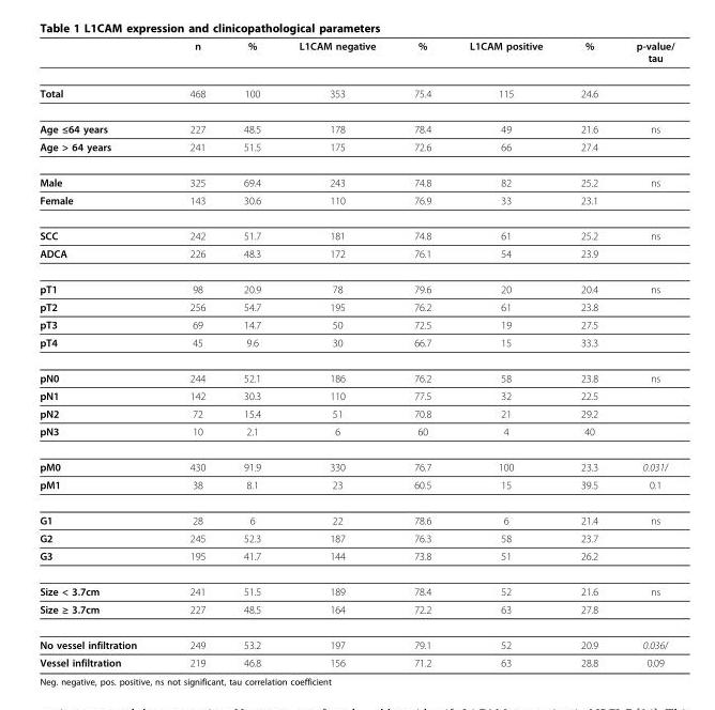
<table><thead><tr><td></td><td>n</td><td>%</td><td>L1CAM negative</td><td>%</td><td>L1CAM positive</td><td>%</td><td>p-value/ tau</td></tr></thead><tbody><tr><td>Total</td><td>468</td><td>100</td><td>353</td><td>75.4</td><td>115</td><td>24.6</td><td></td></tr><tr><td>Age ≤64 years</td><td>227</td><td>48.5</td><td>178</td><td>78.4</td><td>49</td><td>21.6</td><td>ns</td></tr><tr><td>Age &gt; 64 years</td><td>241</td><td>51.5</td><td>175</td><td>72.6</td><td>66</td><td>27.4</td><td></td></tr><tr><td>Male</td><td>325</td><td>69.4</td><td>243</td><td>74.8</td><td>82</td><td>25.2</td><td>ns</td></tr><tr><td>Female</td><td>143</td><td>30.6</td><td>110</td><td>76.9</td><td>33</td><td>23.1</td><td></td></tr><tr><td>SCC</td><td>242</td><td>51.7</td><td>181</td><td>74.8</td><td>61</td><td>25.2</td><td>ns</td></tr><tr><td>ADCA</td><td>226</td><td>48.3</td><td>172</td><td>76.1</td><td>54</td><td>23.9</td><td></td></tr><tr><td>pT1</td><td>98</td><td>20.9</td><td>78</td><td>79.6</td><td>20</td><td>20.4</td><td>ns</td></tr><tr><td>pT2</td><td>256</td><td>54.7</td><td>195</td><td>76.2</td><td>61</td><td>23.8</td><td></td></tr><tr><td>pT3</td><td>69</td><td>14.7</td><td>50</td><td>72.5</td><td>19</td><td>27.5</td><td></td></tr><tr><td>pT4</td><td>45</td><td>9.6</td><td>30</td><td>66.7</td><td>15</td><td>33.3</td><td></td></tr><tr><td>pN0</td><td>244</td><td>52.1</td><td>186</td><td>76.2</td><td>58</td><td>23.8</td><td>ns</td></tr><tr><td>pN1</td><td>142</td><td>30.3</td><td>110</td><td>77.5</td><td>32</td><td>22.5</td><td></td></tr><tr><td>pN2</td><td>72</td><td>15.4</td><td>51</td><td>70.8</td><td>21</td><td>29.2</td><td></td></tr><tr><td>pN3</td><td>10</td><td>2.1</td><td>6</td><td>60</td><td>4</td><td>40</td><td></td></tr><tr><td>pM0</td><td>430</td><td>91.9</td><td>330</td><td>76.7</td><td>100</td><td>23.3</td><td>0.031/</td></tr><tr><td>pM1</td><td>38</td><td>8.1</td><td>23</td><td>60.5</td><td>15</td><td>39.5</td><td>0.1</td></tr><tr><td>G1</td><td>28</td><td>6</td><td>22</td><td>78.6</td><td>6</td><td>21.4</td><td>ns</td></tr><tr><td>G2</td><td>245</td><td>52.3</td><td>187</td><td>76.3</td><td>58</td><td>23.7</td><td></td></tr><tr><td>G3</td><td>195</td><td>41.7</td><td>144</td><td>73.8</td><td>51</td><td>26.2</td><td></td></tr><tr><td>Size &lt; 3.7cm</td><td>241</td><td>51.5</td><td>189</td><td>78.4</td><td>52</td><td>21.6</td><td>ns</td></tr><tr><td>Size ≥ 3.7cm</td><td>227</td><td>48.5</td><td>164</td><td>72.2</td><td>63</td><td>27.8</td><td></td></tr><tr><td>No vessel infiltration</td><td>249</td><td>53.2</td><td>197</td><td>79.1</td><td>52</td><td>20.9</td><td>0.036/</td></tr><tr><td>Vessel infiltration</td><td>219</td><td>46.8</td><td>156</td><td>71.2</td><td>63</td><td>28.8</td><td>0.09</td></tr></tbody></table>